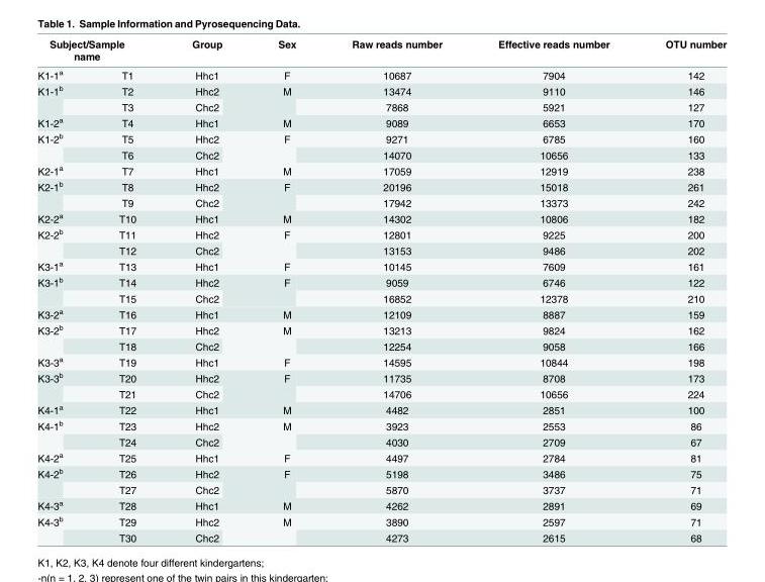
<table><thead><tr><td colspan="2">Subject/Sample name</td><td rowspan="2">Group Hhc1</td><td rowspan="2">Sex F</td><td rowspan="2">Raw reads number 10687</td><td rowspan="2">Effective reads number 7904</td><td rowspan="2">OTU number 142</td></tr><tr><td>K1-1<sup>a</sup></td><td>T1</td></tr></thead><tbody><tr><td rowspan="2">K1-1<sup>b</sup></td><td>T2</td><td>Hhc2</td><td rowspan="2">M</td><td>13474</td><td>9110</td><td>146</td></tr><tr><td>T3</td><td>Chc2</td><td>7868</td><td>5921</td><td>127</td></tr><tr><td>K1-2<sup>a</sup></td><td>T4</td><td>Hhc1</td><td>M</td><td>9089</td><td>6653</td><td>170</td></tr><tr><td rowspan="2">K1-2<sup>b</sup></td><td>T5</td><td>Hhc2</td><td rowspan="2">F</td><td>9271</td><td>6785</td><td>160</td></tr><tr><td>T6</td><td>Chc2</td><td>14070</td><td>10656</td><td>133</td></tr><tr><td>K2-1<sup>a</sup></td><td>T7</td><td>Hhc1</td><td>M</td><td>17059</td><td>12919</td><td>238</td></tr><tr><td rowspan="2">K2-1<sup>b</sup></td><td>T8</td><td>Hhc2</td><td rowspan="2">F</td><td>20196</td><td>15018</td><td>261</td></tr><tr><td>T9</td><td>Chc2</td><td>17942</td><td>13373</td><td>242</td></tr><tr><td>K2-2<sup>a</sup></td><td>T10</td><td>Hhc1</td><td>M</td><td>14302</td><td>10806</td><td>182</td></tr><tr><td rowspan="2">K2-2<sup>b</sup></td><td>T11</td><td>Hhc2</td><td rowspan="2">F</td><td>12801</td><td>9225</td><td>200</td></tr><tr><td>T12</td><td>Chc2</td><td>13153</td><td>9486</td><td>202</td></tr><tr><td>K3-1<sup>a</sup></td><td>T13</td><td>Hhc1</td><td>F</td><td>10145</td><td>7609</td><td>161</td></tr><tr><td rowspan="2">K3-1<sup>b</sup></td><td>T14</td><td>Hhc2</td><td rowspan="2">F</td><td>9059</td><td>6746</td><td>122</td></tr><tr><td>T15</td><td>Chc2</td><td>16852</td><td>12378</td><td>210</td></tr><tr><td>K3-2<sup>a</sup></td><td>T16</td><td>Hhc1</td><td>M</td><td>12109</td><td>8887</td><td>159</td></tr><tr><td rowspan="2">K3-2<sup>b</sup></td><td>T17</td><td>Hhc2</td><td rowspan="2">M</td><td>13213</td><td>9824</td><td>162</td></tr><tr><td>T18</td><td>Chc2</td><td>12254</td><td>9058</td><td>166</td></tr><tr><td>K3-3<sup>a</sup></td><td>T19</td><td>Hhc1</td><td>F</td><td>14595</td><td>10844</td><td>198</td></tr><tr><td rowspan="2">K3-3<sup>b</sup></td><td>T20</td><td>Hhc2</td><td rowspan="2">F</td><td>11735</td><td>8708</td><td>173</td></tr><tr><td>T21</td><td>Chc2</td><td>14706</td><td>10656</td><td>224</td></tr><tr><td>K4-1<sup>a</sup></td><td>T22</td><td>Hhc1</td><td>M</td><td>4482</td><td>2851</td><td>100</td></tr><tr><td rowspan="2">K4-1<sup>b</sup></td><td>T23</td><td>Hhc2</td><td rowspan="2">M</td><td>3923</td><td>2553</td><td>86</td></tr><tr><td>T24</td><td>Chc2</td><td>4030</td><td>2709</td><td>67</td></tr><tr><td>K4-2<sup>a</sup></td><td>T25</td><td>Hhc1</td><td>F</td><td>4497</td><td>2784</td><td>81</td></tr><tr><td rowspan="2">K4-2<sup>b</sup></td><td>T26</td><td>Hhc2</td><td rowspan="2">F</td><td>5198</td><td>3486</td><td>75</td></tr><tr><td>T27</td><td>Chc2</td><td>5870</td><td>3737</td><td>71</td></tr><tr><td>K4-3<sup>a</sup></td><td>T28</td><td>Hhc1</td><td>M</td><td>4262</td><td>2891</td><td>69</td></tr><tr><td rowspan="2">K4-3<sup>b</sup></td><td>T29</td><td>Hhc2</td><td rowspan="2">M</td><td>3890</td><td>2597</td><td>71</td></tr><tr><td>T30</td><td>Chc2</td><td>4273</td><td>2615</td><td>68</td></tr></tbody></table>